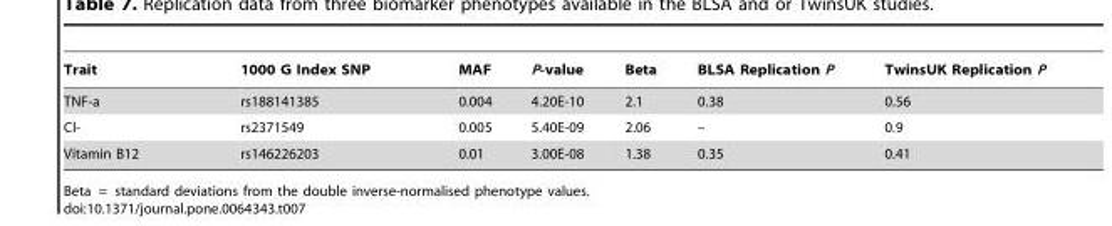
<table><thead><tr><td>Trait</td><td>1000 G Index SNP</td><td>MAF</td><td>P-value</td><td>Beta</td><td>BLSA Replication P</td><td>TwinsUK Replication P</td></tr></thead><tbody><tr><td>TNF-a</td><td>rs188141385</td><td>0.004</td><td>4.20E-10</td><td>2.1</td><td>0.38</td><td>0.56</td></tr><tr><td>Cl-</td><td>rs2371549</td><td>0.005</td><td>5.40E-09</td><td>2.06</td><td>–</td><td>0.9</td></tr><tr><td>Vitamin B12</td><td>rs146226203</td><td>0.01</td><td>3.00E-08</td><td>1.38</td><td>0.35</td><td>0.41</td></tr></tbody></table>